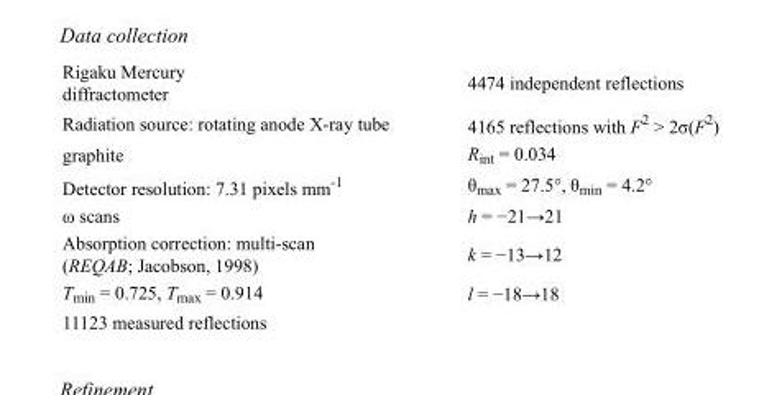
<table><tbody><tr><td>Rigaku Mercury diffractometer</td><td>4474 independent reflections</td></tr><tr><td>Radiation source: rotating anode X-ray tube</td><td>4165 reflections with F<sup>2</sup> &gt; 2σ(F<sup>2</sup>)</td></tr><tr><td>graphite</td><td>R<sub>int</sub> = 0.034</td></tr><tr><td>Detector resolution: 7.31 pixels mm<sup>-1</sup></td><td>θ<sub>max</sub> = 27.5°, θ<sub>min</sub> = 4.2°</td></tr><tr><td>ω scans</td><td>h = −21→21</td></tr><tr><td>Absorption correction: multi-scan (REQAB; Jacobson, 1998)</td><td>k = −13→12</td></tr><tr><td>T<sub>min</sub> = 0.725, T<sub>max</sub> = 0.914</td><td>l = −18→18</td></tr><tr><td>11123 measured reflections</td><td></td></tr></tbody></table>